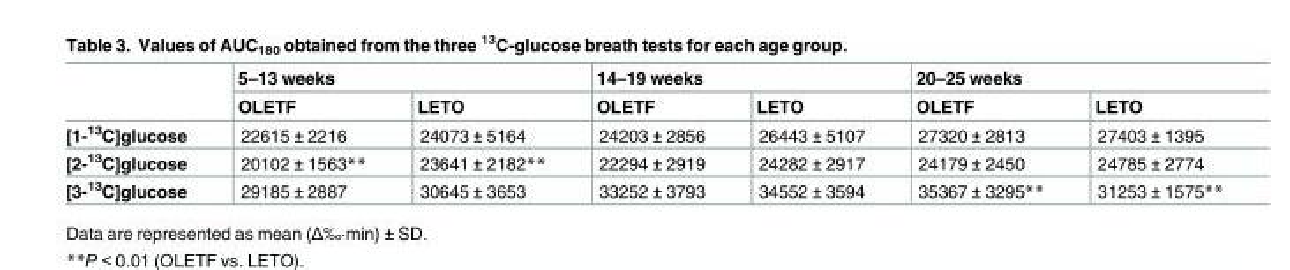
<table><thead><tr><td rowspan="2"></td><td colspan="2">5–13 weeks</td><td colspan="2">14–19 weeks</td><td colspan="2">20–25 weeks</td></tr><tr><td>OLETF</td><td>LETO</td><td>OLETF</td><td>LETO</td><td>OLETF</td><td>LETO</td></tr></thead><tbody><tr><td>[1-<sup>13</sup>C]glucose</td><td>22615 ± 2216</td><td>24073 ± 5164</td><td>24203 ± 2856</td><td>26443 ± 5107</td><td>27320 ± 2813</td><td>27403 ± 1395</td></tr><tr><td>[2-<sup>13</sup>C]glucose</td><td>20102 ± 1563**</td><td>23641 ± 2182**</td><td>22294 ± 2919</td><td>24282 ± 2917</td><td>24179 ± 2450</td><td>24785 ± 2774</td></tr><tr><td>[3-<sup>13</sup>C]glucose</td><td>29185 ± 2887</td><td>30645 ± 3653</td><td>33252 ± 3793</td><td>34552 ± 3594</td><td>35367 ± 3295**</td><td>31253 ± 1575**</td></tr></tbody></table>